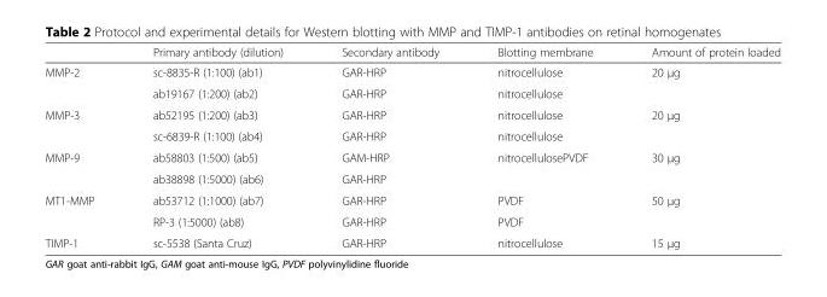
<table><thead><tr><td></td><td>Primary antibody (dilution)</td><td>Secondary antibody</td><td>Blotting membrane</td><td>Amount of protein loaded</td></tr></thead><tbody><tr><td rowspan="2">MMP-2</td><td>sc-8835-R (1:100) (ab1)</td><td>GAR-HRP</td><td>nitrocellulose</td><td rowspan="2">20 μg</td></tr><tr><td>ab19167 (1:200) (ab2)</td><td>GAR-HRP</td><td>nitrocellulose</td></tr><tr><td rowspan="2">MMP-3</td><td>ab52195 (1:200) (ab3)</td><td>GAR-HRP</td><td>nitrocellulose</td><td rowspan="2">20 μg</td></tr><tr><td>sc-6839-R (1:100) (ab4)</td><td>GAR-HRP</td><td>nitrocellulose</td></tr><tr><td rowspan="2">MMP-9</td><td>ab58803 (1:500) (ab5)</td><td>GAM-HRP</td><td rowspan="2">nitrocellulosePVDF</td><td rowspan="2">30 μg</td></tr><tr><td>ab38898 (1:5000) (ab6)</td><td>GAR-HRP</td></tr><tr><td rowspan="2">MT1-MMP</td><td>ab53712 (1:1000) (ab7)</td><td>GAR-HRP</td><td>PVDF</td><td rowspan="2">50 μg</td></tr><tr><td>RP-3 (1:5000) (ab8)</td><td>GAR-HRP</td><td>PVDF</td></tr><tr><td>TIMP-1</td><td>sc-5538 (Santa Cruz)</td><td>GAR-HRP</td><td>nitrocellulose</td><td>15 μg</td></tr></tbody></table>